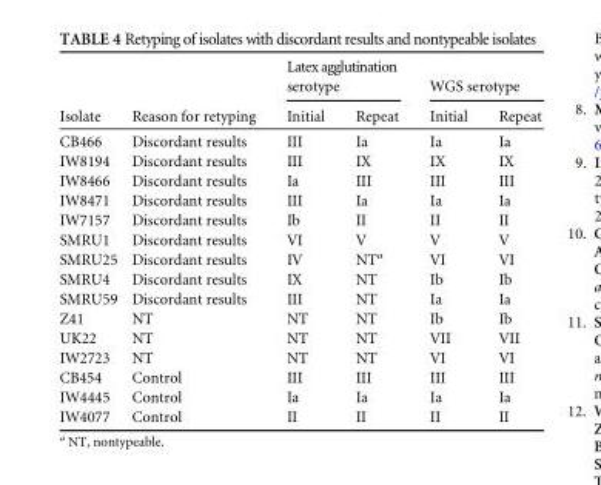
<table><thead><tr><td rowspan="2">Isolate</td><td rowspan="2">Reason for retyping</td><td colspan="2">Latex agglutination serotype</td><td colspan="2">WGS serotype</td></tr><tr><td>Initial</td><td>Repeat</td><td>Initial</td><td>Repeat</td></tr></thead><tbody><tr><td>CB466</td><td>Discordant results</td><td>III</td><td>Ia</td><td>Ia</td><td>Ia</td></tr><tr><td>IW8194</td><td>Discordant results</td><td>III</td><td>IX</td><td>IX</td><td>IX</td></tr><tr><td>IW8466</td><td>Discordant results</td><td>Ia</td><td>III</td><td>III</td><td>III</td></tr><tr><td>IW8471</td><td>Discordant results</td><td>III</td><td>Ia</td><td>Ia</td><td>Ia</td></tr><tr><td>IW7157</td><td>Discordant results</td><td>Ib</td><td>II</td><td>II</td><td>II</td></tr><tr><td>SMRU1</td><td>Discordant results</td><td>VI</td><td>V</td><td>V</td><td>V</td></tr><tr><td>SMRU25</td><td>Discordant results</td><td>IV</td><td>NT<sup>a</sup></td><td>VI</td><td>VI</td></tr><tr><td>SMRU4</td><td>Discordant results</td><td>IX</td><td>NT</td><td>Ib</td><td>Ib</td></tr><tr><td>SMRU59</td><td>Discordant results</td><td>III</td><td>NT</td><td>Ia</td><td>Ia</td></tr><tr><td>Z41</td><td>NT</td><td>NT</td><td>NT</td><td>Ib</td><td>Ib</td></tr><tr><td>UK22</td><td>NT</td><td>NT</td><td>NT</td><td>VII</td><td>VII</td></tr><tr><td>IW2723</td><td>NT</td><td>NT</td><td>NT</td><td>VI</td><td>VI</td></tr><tr><td>CB454</td><td>Control</td><td>III</td><td>III</td><td>III</td><td>III</td></tr><tr><td>IW4445</td><td>Control</td><td>Ia</td><td>Ia</td><td>Ia</td><td>Ia</td></tr><tr><td>IW4077</td><td>Control</td><td>II</td><td>II</td><td>II</td><td>II</td></tr></tbody></table>